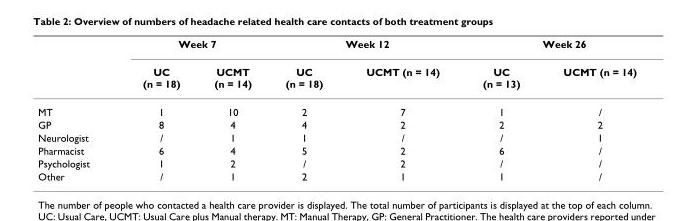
<table><thead><tr><td rowspan="2"></td><td colspan="2">Week 7</td><td colspan="2">Week 12</td><td colspan="2">Week 26</td></tr><tr><td>UC (n = 18)</td><td>UCMT (n = 14)</td><td>UC (n = 18)</td><td>UCMT (n = 14)</td><td>UC (n = 13)</td><td>UCMT (n = 14)</td></tr></thead><tbody><tr><td>MT</td><td>1</td><td>10</td><td>2</td><td>7</td><td>1</td><td>/</td></tr><tr><td>GP</td><td>8</td><td>4</td><td>4</td><td>2</td><td>2</td><td>2</td></tr><tr><td>Neurologist</td><td>/</td><td>1</td><td>1</td><td>/</td><td>/</td><td>1</td></tr><tr><td>Pharmacist</td><td>6</td><td>4</td><td>5</td><td>2</td><td>6</td><td>/</td></tr><tr><td>Psychologist</td><td>1</td><td>2</td><td>/</td><td>2</td><td>/</td><td>/</td></tr><tr><td>Other</td><td>/</td><td>1</td><td>2</td><td>1</td><td>1</td><td>/</td></tr></tbody></table>